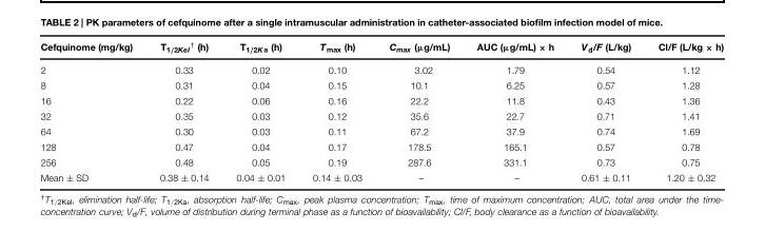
<table><thead><tr><td>Cefquinome (mg/kg)</td><td>T<sub>1/2Kel</sub><sup>†</sup> (h)</td><td>T<sub>1/2Ka</sub> (h)</td><td>T<sub>max</sub> (h)</td><td>C<sub>max</sub> (µg/mL)</td><td>AUC (µg/mL) × h</td><td>V<sub>d</sub>/F (L/kg)</td><td>Cl/F (L/kg × h)</td></tr></thead><tbody><tr><td>2</td><td>0.33</td><td>0.02</td><td>0.10</td><td>3.02</td><td>1.79</td><td>0.54</td><td>1.12</td></tr><tr><td>8</td><td>0.31</td><td>0.04</td><td>0.15</td><td>10.1</td><td>6.25</td><td>0.57</td><td>1.28</td></tr><tr><td>16</td><td>0.22</td><td>0.06</td><td>0.16</td><td>22.2</td><td>11.8</td><td>0.43</td><td>1.36</td></tr><tr><td>32</td><td>0.35</td><td>0.03</td><td>0.12</td><td>35.6</td><td>22.7</td><td>0.71</td><td>1.41</td></tr><tr><td>64</td><td>0.30</td><td>0.03</td><td>0.11</td><td>67.2</td><td>37.9</td><td>0.74</td><td>1.69</td></tr><tr><td>128</td><td>0.47</td><td>0.04</td><td>0.17</td><td>178.5</td><td>165.1</td><td>0.57</td><td>0.78</td></tr><tr><td>256</td><td>0.48</td><td>0.05</td><td>0.19</td><td>287.6</td><td>331.1</td><td>0.73</td><td>0.75</td></tr><tr><td>Mean ± SD</td><td>0.38 ± 0.14</td><td>0.04 ± 0.01</td><td>0.14 ± 0.03</td><td>–</td><td>–</td><td>0.61 ± 0.11</td><td>1.20 ± 0.32</td></tr></tbody></table>